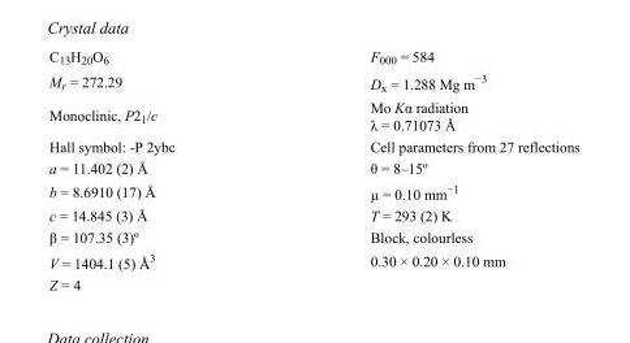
<table><tbody><tr><td>C<sub>13</sub>H<sub>20</sub>O<sub>6</sub></td><td>F000 = 584</td></tr><tr><td>M<sub>r</sub> = 272.29</td><td>D<sub>x</sub> = 1.288 Mg m<sup>−3</sup></td></tr><tr><td>Monoclinic, P2<sub>1</sub>/c</td><td>Mo Kα radiation λ = 0.71073 Å</td></tr><tr><td>Hall symbol: -P 2ybc</td><td>Cell parameters from 27 reflections</td></tr><tr><td>a = 11.402 (2) Å</td><td>θ = 8–15º</td></tr><tr><td>b = 8.6910 (17) Å</td><td>µ = 0.10 mm<sup>−1</sup></td></tr><tr><td>c = 14.845 (3) Å</td><td>T = 293 (2) K</td></tr><tr><td>β = 107.35 (3)º</td><td>Block, colourless</td></tr><tr><td>V = 1404.1 (5) Å<sup>3</sup></td><td>0.30 × 0.20 × 0.10 mm</td></tr><tr><td>Z = 4</td><td></td></tr></tbody></table>